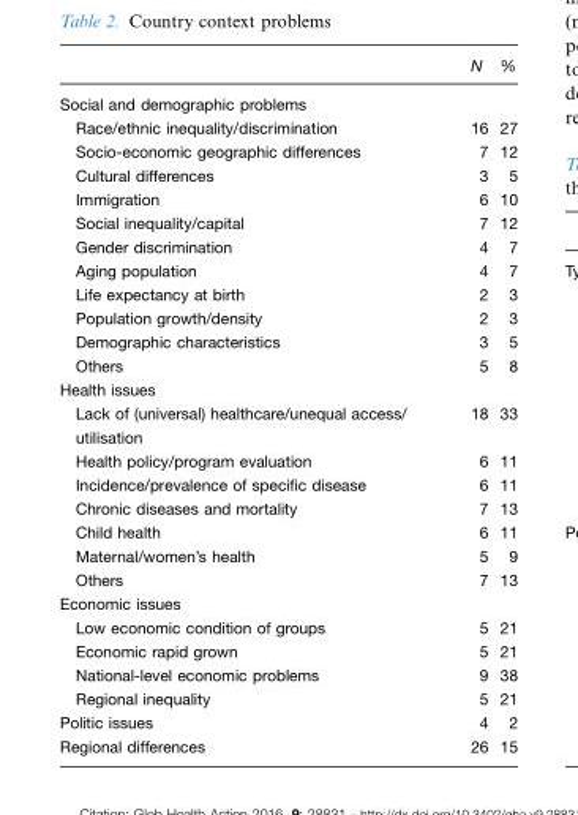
<table><thead><tr><td></td><td>N</td><td>%</td></tr></thead><tbody><tr><td colspan="3">Social and demographic problems</td></tr><tr><td>Race/ethnic inequality/discrimination</td><td>16</td><td>27</td></tr><tr><td>Socio-economic geographic differences</td><td>7</td><td>12</td></tr><tr><td>Cultural differences</td><td>3</td><td>5</td></tr><tr><td>Immigration</td><td>6</td><td>10</td></tr><tr><td>Social inequality/capital</td><td>7</td><td>12</td></tr><tr><td>Gender discrimination</td><td>4</td><td>7</td></tr><tr><td>Aging population</td><td>4</td><td>7</td></tr><tr><td>Life expectancy at birth</td><td>2</td><td>3</td></tr><tr><td>Population growth/density</td><td>2</td><td>3</td></tr><tr><td>Demographic characteristics</td><td>3</td><td>5</td></tr><tr><td>Others</td><td>5</td><td>8</td></tr><tr><td colspan="3">Health issues</td></tr><tr><td>Lack of (universal) healthcare/unequal access/ utilisation</td><td>18</td><td>33</td></tr><tr><td>Health policy/program evaluation</td><td>6</td><td>11</td></tr><tr><td>Incidence/prevalence of specific disease</td><td>6</td><td>11</td></tr><tr><td>Chronic diseases and mortality</td><td>7</td><td>13</td></tr><tr><td>Child health</td><td>6</td><td>11</td></tr><tr><td>Maternal/women’s health</td><td>5</td><td>9</td></tr><tr><td>Others</td><td>7</td><td>13</td></tr><tr><td colspan="3">Economic issues</td></tr><tr><td>Low economic condition of groups</td><td>5</td><td>21</td></tr><tr><td>Economic rapid grown</td><td>5</td><td>21</td></tr><tr><td>National-level economic problems</td><td>9</td><td>38</td></tr><tr><td>Regional inequality</td><td>5</td><td>21</td></tr><tr><td>Politic issues</td><td>4</td><td>2</td></tr><tr><td>Regional differences</td><td>26</td><td>15</td></tr></tbody></table>